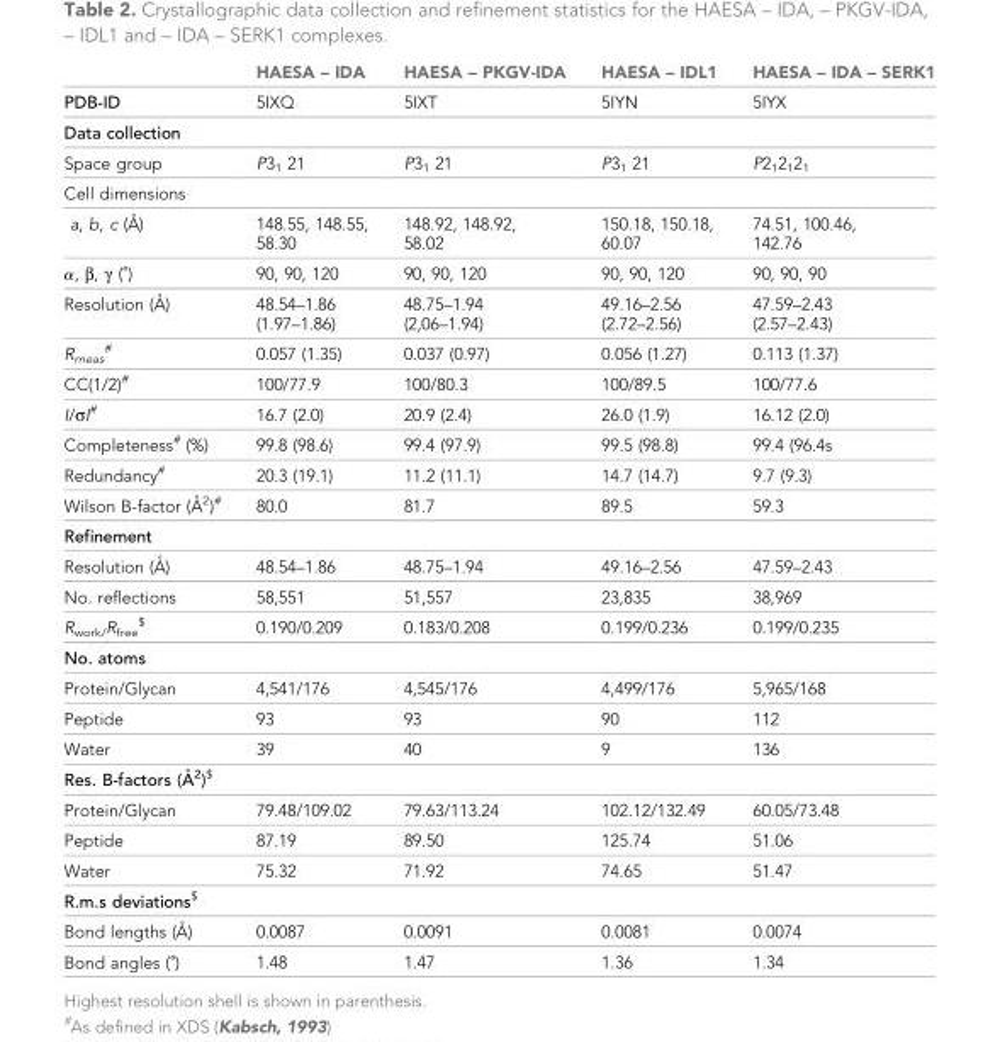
<table><thead><tr><td></td><td>HAESA – IDA</td><td>HAESA – PKGV-IDA</td><td>HAESA – IDL1</td><td>HAESA – IDA – SERK1</td></tr></thead><tbody><tr><td>PDB-ID</td><td>5IXQ</td><td>5IXT</td><td>5IYN</td><td>5IYX</td></tr><tr><td colspan="5">Data collection</td></tr><tr><td>Space group</td><td>P3<sub>1</sub> 21</td><td>P3<sub>1</sub> 21</td><td>P3<sub>1</sub> 21</td><td>P2<sub>1</sub>2<sub>1</sub>2<sub>1</sub></td></tr><tr><td colspan="5">Cell dimensions</td></tr><tr><td>a, b, c (A˚ )</td><td>148.55, 148.55, 58.30</td><td>148.92, 148.92, 58.02</td><td>150.18, 150.18, 60.07</td><td>74.51, 100.46, 142.76</td></tr><tr><td>α, β, γ (˚)</td><td>90, 90, 120</td><td>90, 90, 120</td><td>90, 90, 120</td><td>90, 90, 90</td></tr><tr><td>Resolution (A˚ )</td><td>48.54–1.86 (1.97–1.86)</td><td>48.75–1.94 (2,06–1.94)</td><td>49.16–2.56 (2.72–2.56)</td><td>47.59–2.43 (2.57–2.43)</td></tr><tr><td>R<sub>meas</sub> <sup>#</sup></td><td>0.057 (1.35)</td><td>0.037 (0.97)</td><td>0.056 (1.27)</td><td>0.113 (1.37)</td></tr><tr><td>CC(1/2)<sup>#</sup></td><td>100/77.9</td><td>100/80.3</td><td>100/89.5</td><td>100/77.6</td></tr><tr><td>I/σI<sup>#</sup></td><td>16.7 (2.0)</td><td>20.9 (2.4)</td><td>26.0 (1.9)</td><td>16.12 (2.0)</td></tr><tr><td>Completeness<sup>#</sup> (%)</td><td>99.8 (98.6)</td><td>99.4 (97.9)</td><td>99.5 (98.8)</td><td>99.4 (96.4s</td></tr><tr><td>Redundancy<sup>#</sup></td><td>20.3 (19.1)</td><td>11.2 (11.1)</td><td>14.7 (14.7)</td><td>9.7 (9.3)</td></tr><tr><td>Wilson B-factor (A˚ 2)#</td><td>80.0</td><td>81.7</td><td>89.5</td><td>59.3</td></tr><tr><td colspan="5">Refinement</td></tr><tr><td>Resolution (A˚ )</td><td>48.54–1.86</td><td>48.75–1.94</td><td>49.16–2.56</td><td>47.59–2.43</td></tr><tr><td>No. reflections</td><td>58,551</td><td>51,557</td><td>23,835</td><td>38,969</td></tr><tr><td>R<sub>work/</sub>R<sub>free</sub> <sup>$</sup></td><td>0.190/0.209</td><td>0.183/0.208</td><td>0.199/0.236</td><td>0.199/0.235</td></tr><tr><td colspan="5">No. atoms</td></tr><tr><td>Protein/Glycan</td><td>4,541/176</td><td>4,545/176</td><td>4,499/176</td><td>5,965/168</td></tr><tr><td>Peptide</td><td>93</td><td>93</td><td>90</td><td>112</td></tr><tr><td>Water</td><td>39</td><td>40</td><td>9</td><td>136</td></tr><tr><td colspan="5">Res. B-factors (A˚ 2)$</td></tr><tr><td>Protein/Glycan</td><td>79.48/109.02</td><td>79.63/113.24</td><td>102.12/132.49</td><td>60.05/73.48</td></tr><tr><td>Peptide</td><td>87.19</td><td>89.50</td><td>125.74</td><td>51.06</td></tr><tr><td>Water</td><td>75.32</td><td>71.92</td><td>74.65</td><td>51.47</td></tr><tr><td colspan="5">R.m.s deviations<sup>$</sup></td></tr><tr><td>Bond lengths (A˚ )</td><td>0.0087</td><td>0.0091</td><td>0.0081</td><td>0.0074</td></tr><tr><td>Bond angles (˚)</td><td>1.48</td><td>1.47</td><td>1.36</td><td>1.34</td></tr></tbody></table>